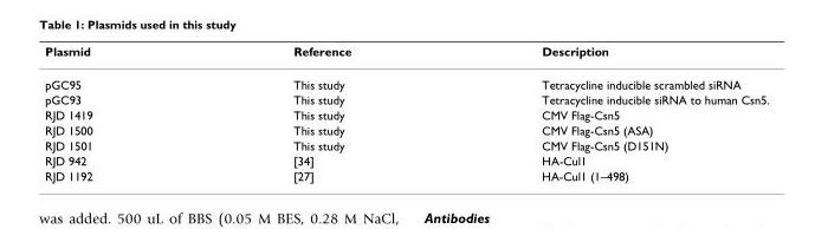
<table><thead><tr><td>Plasmid</td><td>Reference</td><td>Description</td></tr></thead><tbody><tr><td>pGC95</td><td>This study</td><td>Tetracycline inducible scrambled siRNA</td></tr><tr><td>pGC93</td><td>This study</td><td>Tetracycline inducible siRNA to human Csn5.</td></tr><tr><td>RJD 1419</td><td>This study</td><td>CMV Flag-Csn5</td></tr><tr><td>RJD 1500</td><td>This study</td><td>CMV Flag-Csn5 (ASA)</td></tr><tr><td>RJD 1501</td><td>This study</td><td>CMV Flag-Csn5 (D151N)</td></tr><tr><td>RJD 942</td><td>[34]</td><td>HA-Cul1</td></tr><tr><td>RJD 1192</td><td>[27]</td><td>HA-Cul1 (1–498)</td></tr></tbody></table>